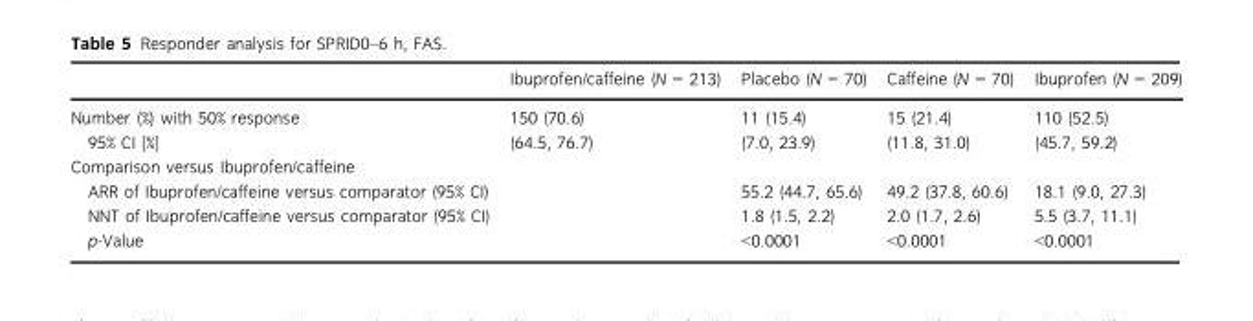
<table><thead><tr><td></td><td>Ibuprofen/caffeine (N = 213)</td><td>Placebo (N = 70)</td><td>Caffeine (N = 70)</td><td>Ibuprofen (N = 209)</td></tr></thead><tbody><tr><td>Number (%) with 50% response</td><td>150 (70.6)</td><td>11 (15.4)</td><td>15 (21.4)</td><td>110 (52.5)</td></tr><tr><td>95% CI [%]</td><td>(64.5, 76.7)</td><td>(7.0, 23.9)</td><td>(11.8, 31.0)</td><td>(45.7, 59.2)</td></tr><tr><td colspan="5">Comparison versus Ibuprofen/caffeine</td></tr><tr><td>ARR of Ibuprofen/caffeine versus comparator (95% CI)</td><td rowspan="3"></td><td>55.2 (44.7, 65.6)</td><td>49.2 (37.8, 60.6)</td><td>18.1 (9.0, 27.3)</td></tr><tr><td>NNT of Ibuprofen/caffeine versus comparator (95% CI)</td><td>1.8 (1.5, 2.2)</td><td>2.0 (1.7, 2.6)</td><td>5.5 (3.7, 11.1)</td></tr><tr><td>p-Value</td><td>&lt;0.0001</td><td>&lt;0.0001</td><td>&lt;0.0001</td></tr></tbody></table>